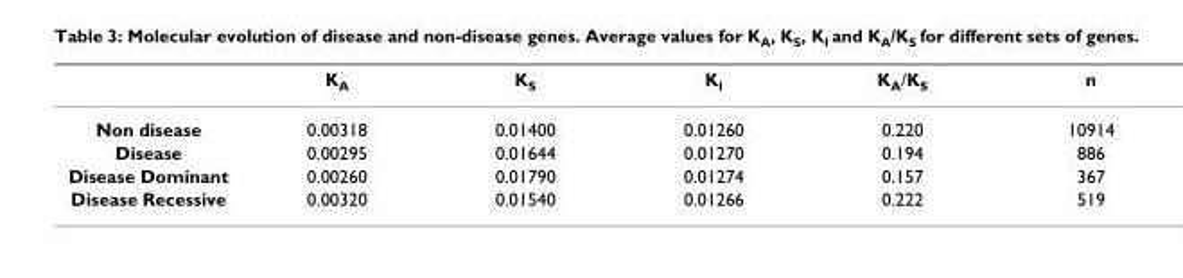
<table><thead><tr><td></td><td>KA</td><td>KS</td><td>KI</td><td>KA/KS</td><td>n</td></tr></thead><tbody><tr><td>Non disease</td><td>0.00318</td><td>0.01400</td><td>0.01260</td><td>0.220</td><td>10914</td></tr><tr><td>Disease</td><td>0.00295</td><td>0.01644</td><td>0.01270</td><td>0.194</td><td>886</td></tr><tr><td>Disease Dominant</td><td>0.00260</td><td>0.01790</td><td>0.01274</td><td>0.157</td><td>367</td></tr><tr><td>Disease Recessive</td><td>0.00320</td><td>0.01540</td><td>0.01266</td><td>0.222</td><td>519</td></tr></tbody></table>